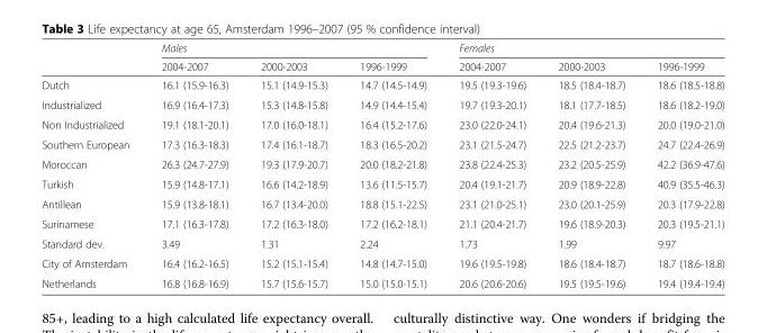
<table><thead><tr><td rowspan="2"></td><td colspan="3">Males</td><td colspan="3">Females</td></tr><tr><td>2004-2007</td><td>2000-2003</td><td>1996-1999</td><td>2004-2007</td><td>2000-2003</td><td>1996-1999</td></tr></thead><tbody><tr><td>Dutch</td><td>16.1 (15.9-16.3)</td><td>15.1 (14.9-15.3)</td><td>14.7 (14.5-14.9)</td><td>19.5 (19.3-19.6)</td><td>18.5 (18.4-18.7)</td><td>18.6 (18.5-18.8)</td></tr><tr><td>Industrialized</td><td>16.9 (16.4-17.3)</td><td>15.3 (14.8-15.8)</td><td>14.9 (14.4-15.4)</td><td>19.7 (19.3-20.1)</td><td>18.1 (17.7-18.5)</td><td>18.6 (18.2-19.0)</td></tr><tr><td>Non Industrialized</td><td>19.1 (18.1-20.1)</td><td>17.0 (16.0-18.1)</td><td>16.4 (15.2-17.6)</td><td>23.0 (22.0-24.1)</td><td>20.4 (19.6-21.3)</td><td>20.0 (19.0-21.0)</td></tr><tr><td>Southern European</td><td>17.3 (16.3-18.3)</td><td>17.4 (16.1-18.7)</td><td>18.3 (16.5-20.2)</td><td>23.1 (21.5-24.7)</td><td>22.5 (21.2-23.7)</td><td>24.7 (22.4-26.9)</td></tr><tr><td>Moroccan</td><td>26.3 (24.7-27.9)</td><td>19.3 (17.9-20.7)</td><td>20.0 (18.2-21.8)</td><td>23.8 (22.4-25.3)</td><td>23.2 (20.5-25.9)</td><td>42.2 (36.9-47.6)</td></tr><tr><td>Turkish</td><td>15.9 (14.8-17.1)</td><td>16.6 (14.2-18.9)</td><td>13.6 (11.5-15.7)</td><td>20.4 (19.1-21.7)</td><td>20.9 (18.9-22.8)</td><td>40.9 (35.5-46.3)</td></tr><tr><td>Antillean</td><td>15.9 (13.8-18.1)</td><td>16.7 (13.4-20.0)</td><td>18.8 (15.1-22.5)</td><td>23.1 (21.0-25.1)</td><td>23.0 (20.1-25.9)</td><td>20.3 (17.9-22.8)</td></tr><tr><td>Surinamese</td><td>17.1 (16.3-17.8)</td><td>17.2 (16.3-18.0)</td><td>17.2 (16.2-18.1)</td><td>21.1 (20.4-21.7)</td><td>19.6 (18.9-20.3)</td><td>20.3 (19.5-21.1)</td></tr><tr><td>Standard dev.</td><td>3.49</td><td>1.31</td><td>2.24</td><td>1.73</td><td>1.99</td><td>9.97</td></tr><tr><td>City of Amsterdam</td><td>16.4 (16.2-16.5)</td><td>15.2 (15.1-15.4)</td><td>14.8 (14.7-15.0)</td><td>19.6 (19.5-19.8)</td><td>18.6 (18.4-18.7)</td><td>18.7 (18.6-18.8)</td></tr><tr><td>Netherlands</td><td>16.8 (16.8-16.9)</td><td>15.7 (15.6-15.7)</td><td>15.0 (15.0-15.1)</td><td>20.6 (20.6-20.6)</td><td>19.5 (19.5-19.6)</td><td>19.4 (19.4-19.4)</td></tr></tbody></table>